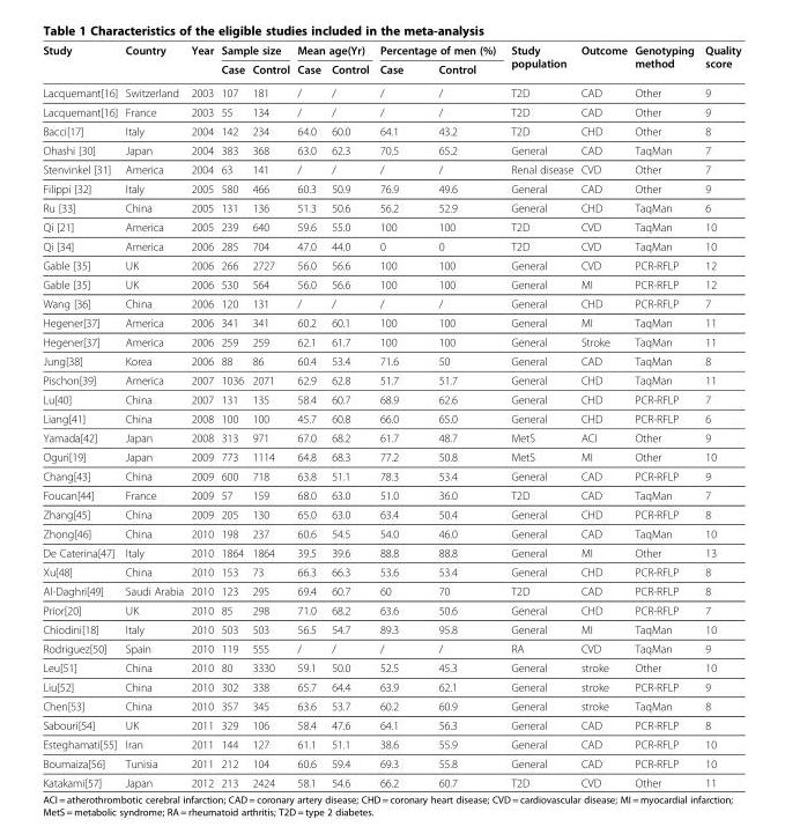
<table><thead><tr><td rowspan="2">Study</td><td rowspan="2">Country</td><td rowspan="2">Year</td><td colspan="2">Sample size</td><td colspan="2">Mean age(Yr)</td><td colspan="2">Percentage of men (%)</td><td rowspan="2">Study population</td><td rowspan="2">Outcome</td><td rowspan="2">Genotyping method</td><td rowspan="2">Quality score</td></tr><tr><td>Case</td><td>Control</td><td>Case</td><td>Control</td><td>Case</td><td>Control</td></tr></thead><tbody><tr><td>Lacquemant[16]</td><td>Switzerland</td><td>2003</td><td>107</td><td>181</td><td>/</td><td>/</td><td>/</td><td>/</td><td>T2D</td><td>CAD</td><td>Other</td><td>9</td></tr><tr><td>Lacquemant[16]</td><td>France</td><td>2003</td><td>55</td><td>134</td><td>/</td><td>/</td><td>/</td><td>/</td><td>T2D</td><td>CAD</td><td>Other</td><td>9</td></tr><tr><td>Bacci[17]</td><td>Italy</td><td>2004</td><td>142</td><td>234</td><td>64.0</td><td>60.0</td><td>64.1</td><td>43.2</td><td>T2D</td><td>CHD</td><td>Other</td><td>8</td></tr><tr><td>Ohashi [30]</td><td>Japan</td><td>2004</td><td>383</td><td>368</td><td>63.0</td><td>62.3</td><td>70.5</td><td>65.2</td><td>General</td><td>CAD</td><td>TaqMan</td><td>7</td></tr><tr><td>Stenvinkel [31]</td><td>America</td><td>2004</td><td>63</td><td>141</td><td>/</td><td>/</td><td>/</td><td>/</td><td>Renal disease</td><td>CVD</td><td>Other</td><td>7</td></tr><tr><td>Filippi [32]</td><td>Italy</td><td>2005</td><td>580</td><td>466</td><td>60.3</td><td>50.9</td><td>76.9</td><td>49.6</td><td>General</td><td>CAD</td><td>Other</td><td>9</td></tr><tr><td>Ru [33]</td><td>China</td><td>2005</td><td>131</td><td>136</td><td>51.3</td><td>50.6</td><td>56.2</td><td>52.9</td><td>General</td><td>CHD</td><td>TaqMan</td><td>6</td></tr><tr><td>Qi [21]</td><td>America</td><td>2005</td><td>239</td><td>640</td><td>59.6</td><td>55.0</td><td>100</td><td>100</td><td>T2D</td><td>CVD</td><td>TaqMan</td><td>10</td></tr><tr><td>Qi [34]</td><td>America</td><td>2006</td><td>285</td><td>704</td><td>47.0</td><td>44.0</td><td>0</td><td>0</td><td>T2D</td><td>CVD</td><td>TaqMan</td><td>10</td></tr><tr><td>Gable [35]</td><td>UK</td><td>2006</td><td>266</td><td>2727</td><td>56.0</td><td>56.6</td><td>100</td><td>100</td><td>General</td><td>CVD</td><td>PCR-RFLP</td><td>12</td></tr><tr><td>Gable [35]</td><td>UK</td><td>2006</td><td>530</td><td>564</td><td>56.0</td><td>56.6</td><td>100</td><td>100</td><td>General</td><td>MI</td><td>PCR-RFLP</td><td>12</td></tr><tr><td>Wang [36]</td><td>China</td><td>2006</td><td>120</td><td>131</td><td>/</td><td>/</td><td>/</td><td>/</td><td>General</td><td>CHD</td><td>PCR-RFLP</td><td>7</td></tr><tr><td>Hegener[37]</td><td>America</td><td>2006</td><td>341</td><td>341</td><td>60.2</td><td>60.1</td><td>100</td><td>100</td><td>General</td><td>MI</td><td>TaqMan</td><td>11</td></tr><tr><td>Hegener[37]</td><td>America</td><td>2006</td><td>259</td><td>259</td><td>62.1</td><td>61.7</td><td>100</td><td>100</td><td>General</td><td>Stroke</td><td>TaqMan</td><td>11</td></tr><tr><td>Jung[38]</td><td>Korea</td><td>2006</td><td>88</td><td>86</td><td>60.4</td><td>53.4</td><td>71.6</td><td>50</td><td>General</td><td>CAD</td><td>TaqMan</td><td>8</td></tr><tr><td>Pischon[39]</td><td>America</td><td>2007</td><td>1036</td><td>2071</td><td>62.9</td><td>62.8</td><td>51.7</td><td>51.7</td><td>General</td><td>CHD</td><td>TaqMan</td><td>11</td></tr><tr><td>Lu[40]</td><td>China</td><td>2007</td><td>131</td><td>135</td><td>58.4</td><td>60.7</td><td>68.9</td><td>62.6</td><td>General</td><td>CHD</td><td>PCR-RFLP</td><td>7</td></tr><tr><td>Liang[41]</td><td>China</td><td>2008</td><td>100</td><td>100</td><td>45.7</td><td>60.8</td><td>66.0</td><td>65.0</td><td>General</td><td>CHD</td><td>PCR-RFLP</td><td>6</td></tr><tr><td>Yamada[42]</td><td>Japan</td><td>2008</td><td>313</td><td>971</td><td>67.0</td><td>68.2</td><td>61.7</td><td>48.7</td><td>MetS</td><td>ACI</td><td>Other</td><td>9</td></tr><tr><td>Oguri[19]</td><td>Japan</td><td>2009</td><td>773</td><td>1114</td><td>64.8</td><td>68.3</td><td>77.2</td><td>50.8</td><td>MetS</td><td>MI</td><td>Other</td><td>10</td></tr><tr><td>Chang[43]</td><td>China</td><td>2009</td><td>600</td><td>718</td><td>63.8</td><td>51.1</td><td>78.3</td><td>53.4</td><td>General</td><td>CAD</td><td>PCR-RFLP</td><td>9</td></tr><tr><td>Foucan[44]</td><td>France</td><td>2009</td><td>57</td><td>159</td><td>68.0</td><td>63.0</td><td>51.0</td><td>36.0</td><td>T2D</td><td>CAD</td><td>TaqMan</td><td>7</td></tr><tr><td>Zhang[45]</td><td>China</td><td>2009</td><td>205</td><td>130</td><td>65.0</td><td>63.0</td><td>63.4</td><td>50.4</td><td>General</td><td>CHD</td><td>PCR-RFLP</td><td>8</td></tr><tr><td>Zhong[46]</td><td>China</td><td>2010</td><td>198</td><td>237</td><td>60.6</td><td>54.5</td><td>54.0</td><td>46.0</td><td>General</td><td>CAD</td><td>TaqMan</td><td>10</td></tr><tr><td>De Caterina[47]</td><td>Italy</td><td>2010</td><td>1864</td><td>1864</td><td>39.5</td><td>39.6</td><td>88.8</td><td>88.8</td><td>General</td><td>MI</td><td>Other</td><td>13</td></tr><tr><td>Xu[48]</td><td>China</td><td>2010</td><td>153</td><td>73</td><td>66.3</td><td>66.3</td><td>53.6</td><td>53.4</td><td>General</td><td>CHD</td><td>PCR-RFLP</td><td>8</td></tr><tr><td>Al-Daghri[49]</td><td>Saudi Arabia</td><td>2010</td><td>123</td><td>295</td><td>69.4</td><td>60.7</td><td>60</td><td>70</td><td>T2D</td><td>CAD</td><td>PCR-RFLP</td><td>8</td></tr><tr><td>Prior[20]</td><td>UK</td><td>2010</td><td>85</td><td>298</td><td>71.0</td><td>68.2</td><td>63.6</td><td>50.6</td><td>General</td><td>CHD</td><td>PCR-RFLP</td><td>7</td></tr><tr><td>Chiodini[18]</td><td>Italy</td><td>2010</td><td>503</td><td>503</td><td>56.5</td><td>54.7</td><td>89.3</td><td>95.8</td><td>General</td><td>MI</td><td>TaqMan</td><td>10</td></tr><tr><td>Rodriguez[50]</td><td>Spain</td><td>2010</td><td>119</td><td>555</td><td>/</td><td>/</td><td>/</td><td>/</td><td>RA</td><td>CVD</td><td>TaqMan</td><td>9</td></tr><tr><td>Leu[51]</td><td>China</td><td>2010</td><td>80</td><td>3330</td><td>59.1</td><td>50.0</td><td>52.5</td><td>45.3</td><td>General</td><td>stroke</td><td>Other</td><td>10</td></tr><tr><td>Liu[52]</td><td>China</td><td>2010</td><td>302</td><td>338</td><td>65.7</td><td>64.4</td><td>63.9</td><td>62.1</td><td>General</td><td>stroke</td><td>PCR-RFLP</td><td>9</td></tr><tr><td>Chen[53]</td><td>China</td><td>2010</td><td>357</td><td>345</td><td>63.6</td><td>53.7</td><td>60.2</td><td>60.9</td><td>General</td><td>stroke</td><td>TaqMan</td><td>8</td></tr><tr><td>Sabouri[54]</td><td>UK</td><td>2011</td><td>329</td><td>106</td><td>58.4</td><td>47.6</td><td>64.1</td><td>56.3</td><td>General</td><td>CAD</td><td>PCR-RFLP</td><td>8</td></tr><tr><td>Esteghamati[55]</td><td>Iran</td><td>2011</td><td>144</td><td>127</td><td>61.1</td><td>51.1</td><td>38.6</td><td>55.9</td><td>General</td><td>CAD</td><td>PCR-RFLP</td><td>10</td></tr><tr><td>Boumaiza[56]</td><td>Tunisia</td><td>2011</td><td>212</td><td>104</td><td>60.6</td><td>59.4</td><td>69.3</td><td>55.8</td><td>General</td><td>CAD</td><td>PCR-RFLP</td><td>10</td></tr><tr><td>Katakami[57]</td><td>Japan</td><td>2012</td><td>213</td><td>2424</td><td>58.1</td><td>54.6</td><td>66.2</td><td>60.7</td><td>T2D</td><td>CVD</td><td>Other</td><td>11</td></tr></tbody></table>